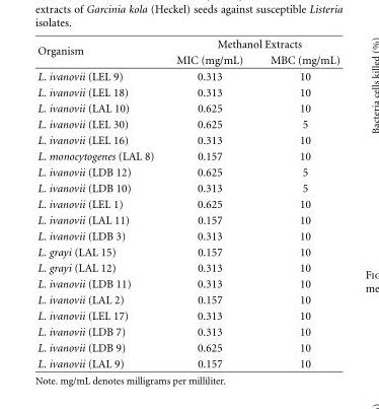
<table><thead><tr><td rowspan="2">Organism</td><td colspan="2">Methanol Extracts</td></tr><tr><td>MIC (mg/mL)</td><td>MBC (mg/mL)</td></tr></thead><tbody><tr><td>L. ivanovii (LEL 9)</td><td>0.313</td><td>10</td></tr><tr><td>L. ivanovii (LEL 18)</td><td>0.313</td><td>10</td></tr><tr><td>L. ivanovii (LAL 10)</td><td>0.625</td><td>10</td></tr><tr><td>L. ivanovii (LEL 30)</td><td>0.625</td><td>5</td></tr><tr><td>L. ivanovii (LEL 16)</td><td>0.313</td><td>10</td></tr><tr><td>L. monocytogenes (LAL 8)</td><td>0.157</td><td>10</td></tr><tr><td>L. ivanovii (LDB 12)</td><td>0.625</td><td>5</td></tr><tr><td>L. ivanovii (LDB 10)</td><td>0.313</td><td>5</td></tr><tr><td>L. ivanovii (LEL 1)</td><td>0.625</td><td>10</td></tr><tr><td>L. ivanovii (LAL 11)</td><td>0.157</td><td>10</td></tr><tr><td>L. ivanovii (LDB 3)</td><td>0.313</td><td>10</td></tr><tr><td>L. grayi (LAL 15)</td><td>0.157</td><td>10</td></tr><tr><td>L. grayi (LAL 12)</td><td>0.313</td><td>10</td></tr><tr><td>L. ivanovii (LDB 11)</td><td>0.313</td><td>10</td></tr><tr><td>L. ivanovii (LAL 2)</td><td>0.157</td><td>10</td></tr><tr><td>L. ivanovii (LEL 17)</td><td>0.313</td><td>10</td></tr><tr><td>L. ivanovii (LDB 7)</td><td>0.313</td><td>10</td></tr><tr><td>L. ivanovii (LDB 9)</td><td>0.625</td><td>10</td></tr><tr><td>L. ivanovii (LAL 9)</td><td>0.157</td><td>10</td></tr></tbody></table>